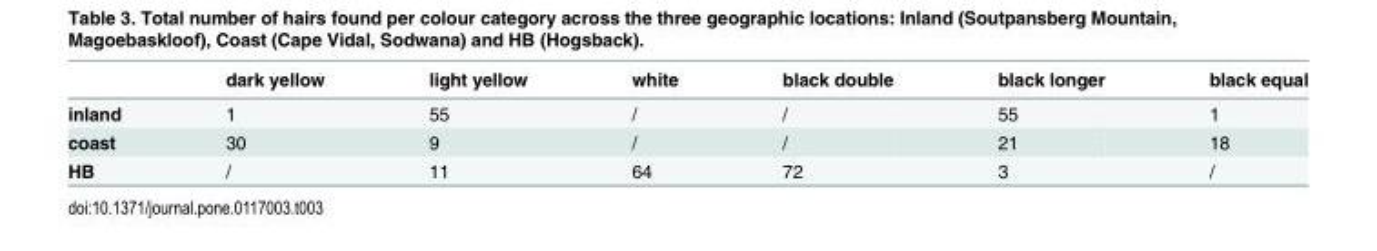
<table><thead><tr><td></td><td>dark yellow</td><td>light yellow</td><td>white</td><td>black double</td><td>black longer</td><td>black equal</td></tr></thead><tbody><tr><td>inland</td><td>1</td><td>55</td><td>/</td><td>/</td><td>55</td><td>1</td></tr><tr><td>coast</td><td>30</td><td>9</td><td>/</td><td>/</td><td>21</td><td>18</td></tr><tr><td>HB</td><td>/</td><td>11</td><td>64</td><td>72</td><td>3</td><td>/</td></tr></tbody></table>